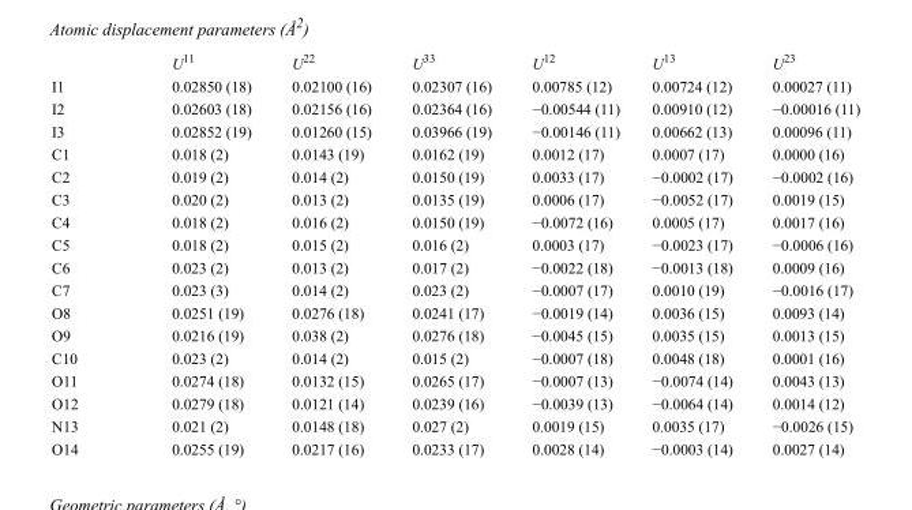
<table><thead><tr><td></td><td>U<sup>11</sup></td><td>U<sup>22</sup></td><td>U<sup>33</sup></td><td>U<sup>12</sup></td><td>U<sup>13</sup></td><td>U<sup>23</sup></td></tr></thead><tbody><tr><td>I1</td><td>0.02850 (18)</td><td>0.02100 (16)</td><td>0.02307 (16)</td><td>0.00785 (12)</td><td>0.00724 (12)</td><td>0.00027 (11)</td></tr><tr><td>I2</td><td>0.02603 (18)</td><td>0.02156 (16)</td><td>0.02364 (16)</td><td>−0.00544 (11)</td><td>0.00910 (12)</td><td>−0.00016 (11)</td></tr><tr><td>I3</td><td>0.02852 (19)</td><td>0.01260 (15)</td><td>0.03966 (19)</td><td>−0.00146 (11)</td><td>0.00662 (13)</td><td>0.00096 (11)</td></tr><tr><td>C1</td><td>0.018 (2)</td><td>0.0143 (19)</td><td>0.0162 (19)</td><td>0.0012 (17)</td><td>0.0007 (17)</td><td>0.0000 (16)</td></tr><tr><td>C2</td><td>0.019 (2)</td><td>0.014 (2)</td><td>0.0150 (19)</td><td>0.0033 (17)</td><td>−0.0002 (17)</td><td>−0.0002 (16)</td></tr><tr><td>C3</td><td>0.020 (2)</td><td>0.013 (2)</td><td>0.0135 (19)</td><td>0.0006 (17)</td><td>−0.0052 (17)</td><td>0.0019 (15)</td></tr><tr><td>C4</td><td>0.018 (2)</td><td>0.016 (2)</td><td>0.0150 (19)</td><td>−0.0072 (16)</td><td>0.0005 (17)</td><td>0.0017 (16)</td></tr><tr><td>C5</td><td>0.018 (2)</td><td>0.015 (2)</td><td>0.016 (2)</td><td>0.0003 (17)</td><td>−0.0023 (17)</td><td>−0.0006 (16)</td></tr><tr><td>C6</td><td>0.023 (2)</td><td>0.013 (2)</td><td>0.017 (2)</td><td>−0.0022 (18)</td><td>−0.0013 (18)</td><td>0.0009 (16)</td></tr><tr><td>C7</td><td>0.023 (3)</td><td>0.014 (2)</td><td>0.023 (2)</td><td>−0.0007 (17)</td><td>0.0010 (19)</td><td>−0.0016 (17)</td></tr><tr><td>O8</td><td>0.0251 (19)</td><td>0.0276 (18)</td><td>0.0241 (17)</td><td>−0.0019 (14)</td><td>0.0036 (15)</td><td>0.0093 (14)</td></tr><tr><td>O9</td><td>0.0216 (19)</td><td>0.038 (2)</td><td>0.0276 (18)</td><td>−0.0045 (15)</td><td>0.0035 (15)</td><td>0.0013 (15)</td></tr><tr><td>C10</td><td>0.023 (2)</td><td>0.014 (2)</td><td>0.015 (2)</td><td>−0.0007 (18)</td><td>0.0048 (18)</td><td>0.0001 (16)</td></tr><tr><td>O11</td><td>0.0274 (18)</td><td>0.0132 (15)</td><td>0.0265 (17)</td><td>−0.0007 (13)</td><td>−0.0074 (14)</td><td>0.0043 (13)</td></tr><tr><td>O12</td><td>0.0279 (18)</td><td>0.0121 (14)</td><td>0.0239 (16)</td><td>−0.0039 (13)</td><td>−0.0064 (14)</td><td>0.0014 (12)</td></tr><tr><td>N13</td><td>0.021 (2)</td><td>0.0148 (18)</td><td>0.027 (2)</td><td>0.0019 (15)</td><td>0.0035 (17)</td><td>−0.0026 (15)</td></tr><tr><td>O14</td><td>0.0255 (19)</td><td>0.0217 (16)</td><td>0.0233 (17)</td><td>0.0028 (14)</td><td>−0.0003 (14)</td><td>0.0027 (14)</td></tr></tbody></table>